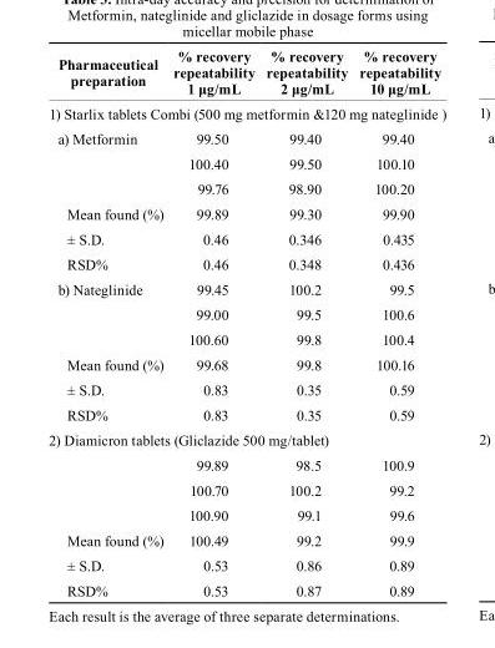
<table><thead><tr><td>Pharmaceutical preparation</td><td>% recovery repeatability 1 μg/mL</td><td>% recovery repeatability 2 μg/mL</td><td>% recovery repeatability 10 μg/mL</td></tr></thead><tbody><tr><td colspan="4">1) Starlix tablets Combi (500 mg metformin &amp;120 mg nateglinide )</td></tr><tr><td rowspan="3">a) Metformin</td><td>99.50</td><td>99.40</td><td>99.40</td></tr><tr><td>100.40</td><td>99.50</td><td>100.10</td></tr><tr><td>99.76</td><td>98.90</td><td>100.20</td></tr><tr><td>Mean found (%)</td><td>99.89</td><td>99.30</td><td>99.90</td></tr><tr><td>± S.D.</td><td>0.46</td><td>0.346</td><td>0.435</td></tr><tr><td>RSD%</td><td>0.46</td><td>0.348</td><td>0.436</td></tr><tr><td rowspan="3">b) Nateglinide</td><td>99.45</td><td>100.2</td><td>99.5</td></tr><tr><td>99.00</td><td>99.5</td><td>100.6</td></tr><tr><td>100.60</td><td>99.8</td><td>100.4</td></tr><tr><td>Mean found (%)</td><td>99.68</td><td>99.8</td><td>100.16</td></tr><tr><td>± S.D.</td><td>0.83</td><td>0.35</td><td>0.59</td></tr><tr><td>RSD%</td><td>0.83</td><td>0.35</td><td>0.59</td></tr><tr><td colspan="4">2) Diamicron tablets (Gliclazide 500 mg/tablet)</td></tr><tr><td></td><td>99.89</td><td>98.5</td><td>100.9</td></tr><tr><td></td><td>100.70</td><td>100.2</td><td>99.2</td></tr><tr><td></td><td>100.90</td><td>99.1</td><td>99.6</td></tr><tr><td>Mean found (%)</td><td>100.49</td><td>99.2</td><td>99.9</td></tr><tr><td>± S.D.</td><td>0.53</td><td>0.86</td><td>0.89</td></tr><tr><td>RSD%</td><td>0.53</td><td>0.87</td><td>0.89</td></tr></tbody></table>